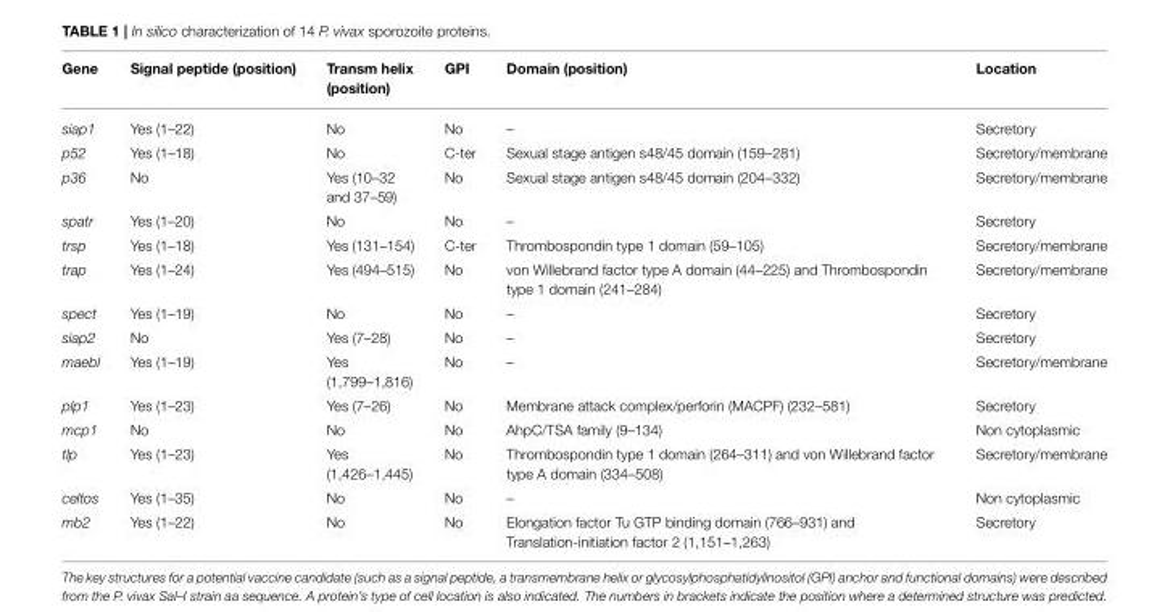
<table><thead><tr><td>Gene</td><td>Signal peptide (position)</td><td>Transm helix (position)</td><td>GPI</td><td>Domain (position)</td><td>Location</td></tr></thead><tbody><tr><td>siap1</td><td>Yes (1–22)</td><td>No</td><td>No</td><td>–</td><td>Secretory</td></tr><tr><td>p52</td><td>Yes (1–18)</td><td>No</td><td>C-ter</td><td>Sexual stage antigen s48/45 domain (159–281)</td><td>Secretory/membrane</td></tr><tr><td>p36</td><td>No</td><td>Yes (10–32 and 37–59)</td><td>No</td><td>Sexual stage antigen s48/45 domain (204–332)</td><td>Secretory/membrane</td></tr><tr><td>spatr</td><td>Yes (1–20)</td><td>No</td><td>No</td><td>–</td><td>Secretory</td></tr><tr><td>trsp</td><td>Yes (1–18)</td><td>Yes (131–154)</td><td>C-ter</td><td>Thrombospondin type 1 domain (59–105)</td><td>Secretory/membrane</td></tr><tr><td>trap</td><td>Yes (1–24)</td><td>Yes (494–515)</td><td>No</td><td>von Willebrand factor type A domain (44–225) and Thrombospondin type 1 domain (241–284)</td><td>Secretory/membrane</td></tr><tr><td>spect</td><td>Yes (1–19)</td><td>No</td><td>No</td><td>–</td><td>Secretory</td></tr><tr><td>siap2</td><td>No</td><td>Yes (7–28)</td><td>No</td><td>–</td><td>Secretory</td></tr><tr><td>maebl</td><td>Yes (1–19)</td><td>Yes (1,799–1,816)</td><td>No</td><td>–</td><td>Secretory/membrane</td></tr><tr><td>plp1</td><td>Yes (1–23)</td><td>Yes (7–26)</td><td>No</td><td>Membrane attack complex/perforin (MACPF) (232–581)</td><td>Secretory</td></tr><tr><td>mcp1</td><td>No</td><td>No</td><td>No</td><td>AhpC/TSA family (9–134)</td><td>Non cytoplasmic</td></tr><tr><td>tlp</td><td>Yes (1–23)</td><td>Yes (1,426–1,445)</td><td>No</td><td>Thrombospondin type 1 domain (264–311) and von Willebrand factor type A domain (334–508)</td><td>Secretory/membrane</td></tr><tr><td>celtos</td><td>Yes (1–35)</td><td>No</td><td>No</td><td>–</td><td>Non cytoplasmic</td></tr><tr><td>mb2</td><td>Yes (1–22)</td><td>No</td><td>No</td><td>Elongation factor Tu GTP binding domain (766–931) and Translation-initiation factor 2 (1,151–1,263)</td><td>Secretory</td></tr></tbody></table>